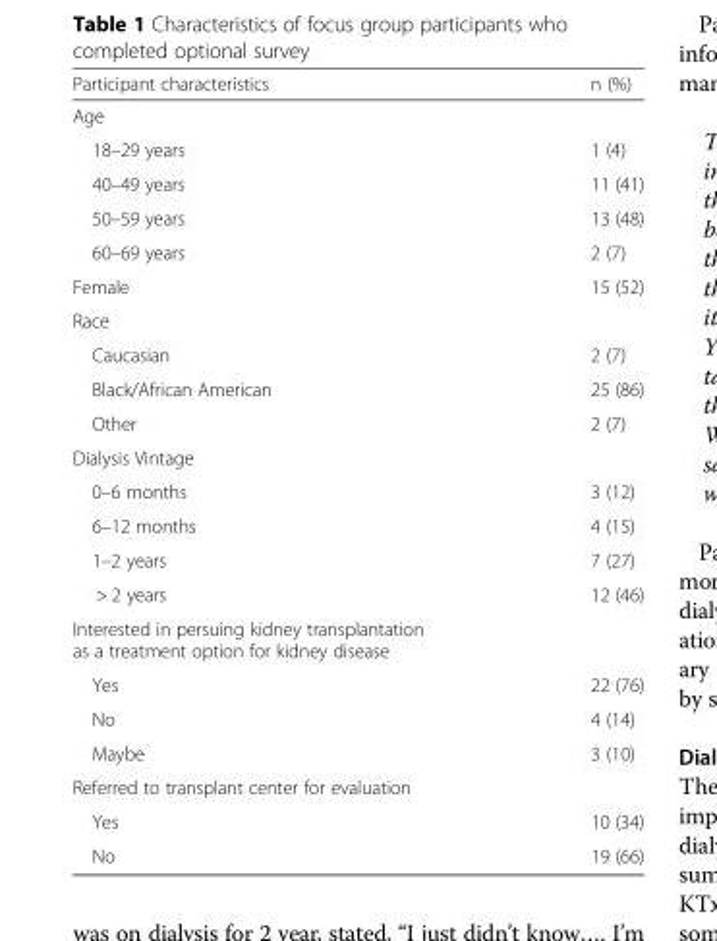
<table><thead><tr><td>Participant characteristics</td><td>n (%)</td></tr></thead><tbody><tr><td colspan="2">Age</td></tr><tr><td>18–29 years</td><td>1 (4)</td></tr><tr><td>40–49 years</td><td>11 (41)</td></tr><tr><td>50–59 years</td><td>13 (48)</td></tr><tr><td>60–69 years</td><td>2 (7)</td></tr><tr><td>Female</td><td>15 (52)</td></tr><tr><td colspan="2">Race</td></tr><tr><td>Caucasian</td><td>2 (7)</td></tr><tr><td>Black/African American</td><td>25 (86)</td></tr><tr><td>Other</td><td>2 (7)</td></tr><tr><td colspan="2">Dialysis Vintage</td></tr><tr><td>0–6 months</td><td>3 (12)</td></tr><tr><td>6–12 months</td><td>4 (15)</td></tr><tr><td>1–2 years</td><td>7 (27)</td></tr><tr><td>&gt; 2 years</td><td>12 (46)</td></tr><tr><td colspan="2">Interested in persuing kidney transplantation as a treatment option for kidney disease</td></tr><tr><td>Yes</td><td>22 (76)</td></tr><tr><td>No</td><td>4 (14)</td></tr><tr><td>Maybe</td><td>3 (10)</td></tr><tr><td colspan="2">Referred to transplant center for evaluation</td></tr><tr><td>Yes</td><td>10 (34)</td></tr><tr><td>No</td><td>19 (66)</td></tr></tbody></table>